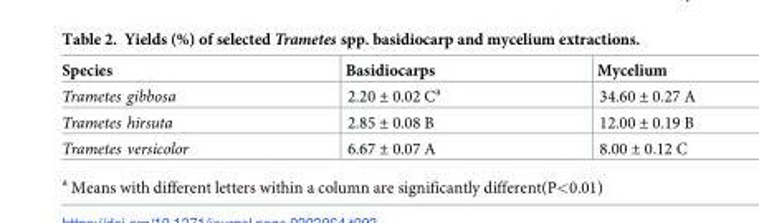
<table><thead><tr><td>Species</td><td>Basidiocarps</td><td>Mycelium</td></tr></thead><tbody><tr><td>Trametes gibbosa</td><td>2.20 ± 0.02 C<sup>a</sup></td><td>34.60 ± 0.27 A</td></tr><tr><td>Trametes hirsuta</td><td>2.85 ± 0.08 B</td><td>12.00 ± 0.19 B</td></tr><tr><td>Trametes versicolor</td><td>6.67 ± 0.07 A</td><td>8.00 ± 0.12 C</td></tr></tbody></table>